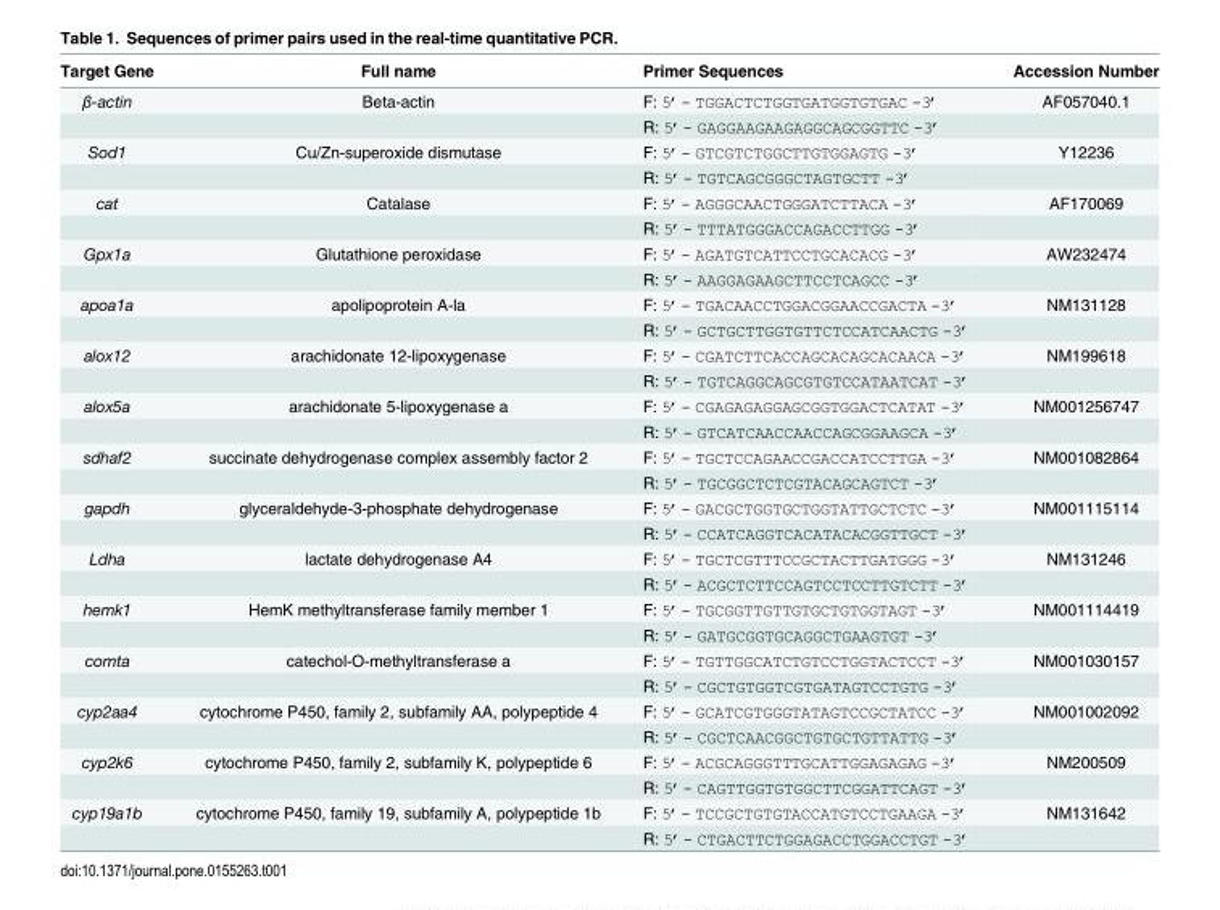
<table><thead><tr><td>Target Gene</td><td>Full name</td><td>Primer Sequences</td><td>Accession Number</td></tr></thead><tbody><tr><td rowspan="2">β-actin</td><td>Beta-actin</td><td>F: 5’- TGGACTCTGGTGATGGTGTGAC -3’</td><td>AF057040.1</td></tr><tr><td></td><td>R: 5’- GAGGAAGAAGAGGCAGCGGTTC -3’</td><td></td></tr><tr><td rowspan="2">Sod1</td><td>Cu/Zn-superoxide dismutase</td><td>F: 5’- GTCGTCTGGCTTGTGGAGTG -3’</td><td>Y12236</td></tr><tr><td></td><td>R: 5’- TGTCAGCGGGCTAGTGCTT -3’</td><td></td></tr><tr><td rowspan="2">cat</td><td>Catalase</td><td>F: 5’- AGGGCAACTGGGATCTTACA -3’</td><td>AF170069</td></tr><tr><td></td><td>R: 5’- TTTATGGGACCAGACCTTGG -3’</td><td></td></tr><tr><td rowspan="2">Gpx1a</td><td>Glutathione peroxidase</td><td>F: 5’- AGATGTCATTCCTGCACACG -3’</td><td>AW232474</td></tr><tr><td></td><td>R: 5’- AAGGAGAAGCTTCCTCAGCC -3’</td><td></td></tr><tr><td rowspan="2">apoa1a</td><td>apolipoprotein A-la</td><td>F: 5’- TGACAACCTGGACGGAACCGACTA -3’</td><td>NM131128</td></tr><tr><td></td><td>R: 5’- GCTGCTTGGTGTTCTCCATCAACTG -3’</td><td></td></tr><tr><td rowspan="2">alox12</td><td>arachidonate 12-lipoxygenase</td><td>F: 5’- CGATCTTCACCAGCACAGCACAACA -3’</td><td>NM199618</td></tr><tr><td></td><td>R: 5’- TGTCAGGCAGCGTGTCCATAATCAT -3’</td><td></td></tr><tr><td rowspan="2">alox5a</td><td>arachidonate 5-lipoxygenase a</td><td>F: 5’- CGAGAGAGGAGCGGTGGACTCATAT -3’</td><td>NM001256747</td></tr><tr><td></td><td>R: 5’- GTCATCAACCAACCAGCGGAAGCA -3’</td><td></td></tr><tr><td rowspan="2">sdhaf2</td><td>succinate dehydrogenase complex assembly factor 2</td><td>F: 5’- TGCTCCAGAACCGACCATCCTTGA -3’</td><td>NM001082864</td></tr><tr><td></td><td>R: 5’- TGCGGCTCTCGTACAGCAGTCT -3’</td><td></td></tr><tr><td rowspan="2">gapdh</td><td>glyceraldehyde-3-phosphate dehydrogenase</td><td>F: 5’- GACGCTGGTGCTGGTATTGCTCTC -3’</td><td>NM001115114</td></tr><tr><td></td><td>R: 5’- CCATCAGGTCACATACACGGTTGCT -3’</td><td></td></tr><tr><td rowspan="2">Ldha</td><td>lactate dehydrogenase A4</td><td>F: 5’- TGCTCGTTTCCGCTACTTGATGGG -3’</td><td>NM131246</td></tr><tr><td></td><td>R: 5’- ACGCTCTTCCAGTCCTCCTTGTCTT -3’</td><td></td></tr><tr><td rowspan="2">hemk1</td><td>HemK methyltransferase family member 1</td><td>F: 5’- TGCGGTTGTTGTGCTGTGGTAGT -3’</td><td>NM001114419</td></tr><tr><td></td><td>R: 5’- GATGCGGTGCAGGCTGAAGTGT -3’</td><td></td></tr><tr><td rowspan="2">comta</td><td>catechol-O-methyltransferase a</td><td>F: 5’- TGTTGGCATCTGTCCTGGTACTCCT -3’</td><td>NM001030157</td></tr><tr><td></td><td>R: 5’- CGCTGTGGTCGTGATAGTCCTGTG -3’</td><td></td></tr><tr><td rowspan="2">cyp2aa4</td><td>cytochrome P450, family 2, subfamily AA, polypeptide 4</td><td>F: 5’- GCATCGTGGGTATAGTCCGCTATCC -3’</td><td>NM001002092</td></tr><tr><td></td><td>R: 5’- CGCTCAACGGCTGTGCTGTTATTG -3’</td><td></td></tr><tr><td rowspan="2">cyp2k6</td><td>cytochrome P450, family 2, subfamily K, polypeptide 6</td><td>F: 5’- ACGCAGGGTTTGCATTGGAGAGAG -3’</td><td>NM200509</td></tr><tr><td></td><td>R: 5’- CAGTTGGTGTGGCTTCGGATTCAGT -3’</td><td></td></tr><tr><td rowspan="2">cyp19a1b</td><td>cytochrome P450, family 19, subfamily A, polypeptide 1b</td><td>F: 5’- TCCGCTGTGTACCATGTCCTGAAGA -3’</td><td>NM131642</td></tr><tr><td></td><td>R: 5’- CTGACTTCTGGAGACCTGGACCTGT -3’</td><td></td></tr></tbody></table>